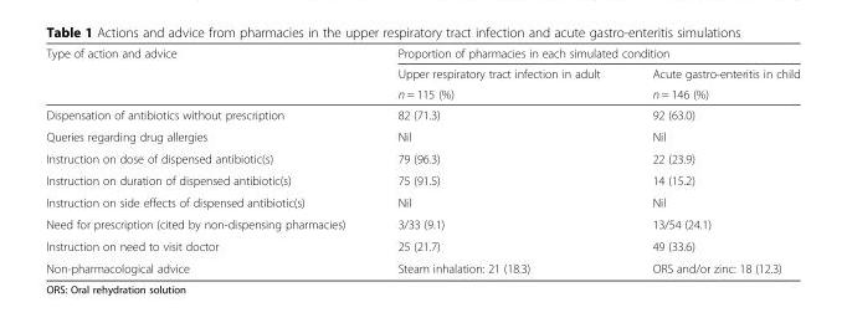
<table><thead><tr><td rowspan="3">Type of action and advice</td><td colspan="2">Proportion of pharmacies in each simulated condition</td></tr><tr><td rowspan="2">Upper respiratory tract infection in adult n = 115 (%)</td><td rowspan="2">Acute gastro-enteritis in child n = 146 (%)</td></tr><tr></tr></thead><tbody><tr><td>Dispensation of antibiotics without prescription</td><td>82 (71.3)</td><td>92 (63.0)</td></tr><tr><td>Queries regarding drug allergies</td><td>Nil</td><td>Nil</td></tr><tr><td>Instruction on dose of dispensed antibiotic(s)</td><td>79 (96.3)</td><td>22 (23.9)</td></tr><tr><td>Instruction on duration of dispensed antibiotic(s)</td><td>75 (91.5)</td><td>14 (15.2)</td></tr><tr><td>Instruction on side effects of dispensed antibiotic(s)</td><td>Nil</td><td>Nil</td></tr><tr><td>Need for prescription (cited by non-dispensing pharmacies)</td><td>3/33 (9.1)</td><td>13/54 (24.1)</td></tr><tr><td>Instruction on need to visit doctor</td><td>25 (21.7)</td><td>49 (33.6)</td></tr><tr><td>Non-pharmacological advice</td><td>Steam inhalation: 21 (18.3)</td><td>ORS and/or zinc: 18 (12.3)</td></tr></tbody></table>